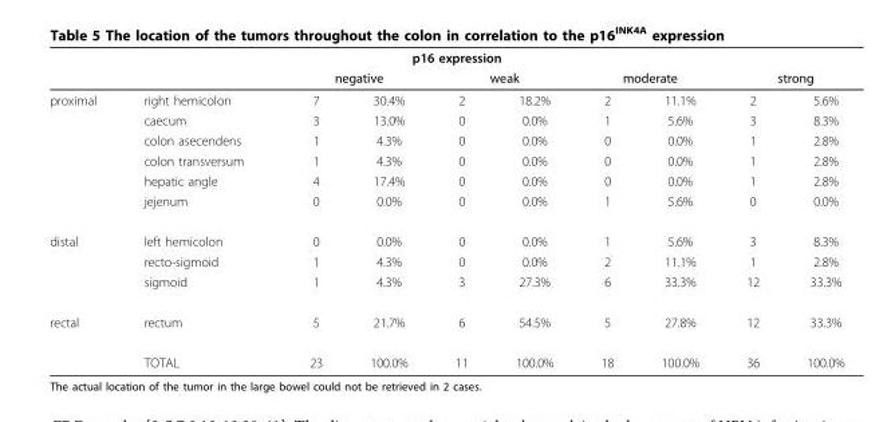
<table><thead><tr><td colspan="10">p16 expression</td></tr><tr><td rowspan="2">proximal</td><td rowspan="2">right hemicolon</td><td colspan="2">negative</td><td colspan="2">weak</td><td colspan="2">moderate</td><td colspan="2">strong</td></tr><tr><td>7</td><td>30.4%</td><td>2</td><td>18.2%</td><td>2</td><td>11.1%</td><td>2</td><td>5.6%</td></tr></thead><tbody><tr><td></td><td>caecum</td><td>3</td><td>13.0%</td><td>0</td><td>0.0%</td><td>1</td><td>5.6%</td><td>3</td><td>8.3%</td></tr><tr><td></td><td>colon asecendens</td><td>1</td><td>4.3%</td><td>0</td><td>0.0%</td><td>0</td><td>0.0%</td><td>1</td><td>2.8%</td></tr><tr><td></td><td>colon transversum</td><td>1</td><td>4.3%</td><td>0</td><td>0.0%</td><td>0</td><td>0.0%</td><td>1</td><td>2.8%</td></tr><tr><td></td><td>hepatic angle</td><td>4</td><td>17.4%</td><td>0</td><td>0.0%</td><td>0</td><td>0.0%</td><td>1</td><td>2.8%</td></tr><tr><td></td><td>jejenum</td><td>0</td><td>0.0%</td><td>0</td><td>0.0%</td><td>1</td><td>5.6%</td><td>0</td><td>0.0%</td></tr><tr><td rowspan="3">distal</td><td>left hemicolon</td><td>0</td><td>0.0%</td><td>0</td><td>0.0%</td><td>1</td><td>5.6%</td><td>3</td><td>8.3%</td></tr><tr><td>recto-sigmoid</td><td>1</td><td>4.3%</td><td>0</td><td>0.0%</td><td>2</td><td>11.1%</td><td>1</td><td>2.8%</td></tr><tr><td>sigmoid</td><td>1</td><td>4.3%</td><td>3</td><td>27.3%</td><td>6</td><td>33.3%</td><td>12</td><td>33.3%</td></tr><tr><td rowspan="2">rectal</td><td>rectum</td><td>5</td><td>21.7%</td><td>6</td><td>54.5%</td><td>5</td><td>27.8%</td><td>12</td><td>33.3%</td></tr><tr><td>TOTAL</td><td>23</td><td>100.0%</td><td>11</td><td>100.0%</td><td>18</td><td>100.0%</td><td>36</td><td>100.0%</td></tr></tbody></table>